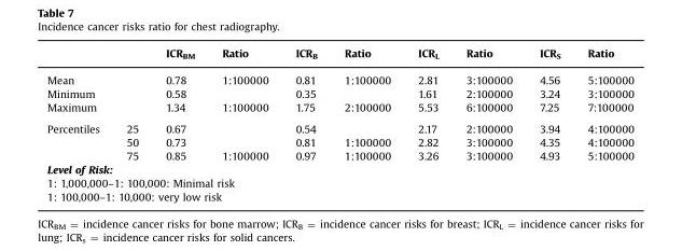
<table><thead><tr><td></td><td></td><td>ICR<sub>BM</sub></td><td>Ratio</td><td>ICR<sub>B</sub></td><td>Ratio</td><td>ICR<sub>L</sub></td><td>Ratio</td><td>ICR<sub>S</sub></td><td>Ratio</td></tr></thead><tbody><tr><td colspan="2">Mean</td><td>0.78</td><td>1:100000</td><td>0.81</td><td>1:100000</td><td>2.81</td><td>3:100000</td><td>4.56</td><td>5:100000</td></tr><tr><td colspan="2">Minimum</td><td>0.58</td><td></td><td>0.35</td><td></td><td>1.61</td><td>2:100000</td><td>3.24</td><td>3:100000</td></tr><tr><td colspan="2">Maximum</td><td>1.34</td><td>1:100000</td><td>1.75</td><td>2:100000</td><td>5.53</td><td>6:100000</td><td>7.25</td><td>7:100000</td></tr><tr><td rowspan="3">Percentiles</td><td>25</td><td>0.67</td><td></td><td>0.54</td><td></td><td>2.17</td><td>2:100000</td><td>3.94</td><td>4:100000</td></tr><tr><td>50</td><td>0.73</td><td></td><td>0.81</td><td>1:100000</td><td>2.82</td><td>3:100000</td><td>4.35</td><td>4:100000</td></tr><tr><td>75</td><td>0.85</td><td>1:100000</td><td>0.97</td><td>1:100000</td><td>3.26</td><td>3:100000</td><td>4.93</td><td>5:100000</td></tr><tr><td colspan="10">Level of Risk:</td></tr><tr><td colspan="10">1: 1,000,000–1: 100,000: Minimal risk</td></tr><tr><td colspan="10">1: 100,000–1: 10,000: very low risk</td></tr></tbody></table>